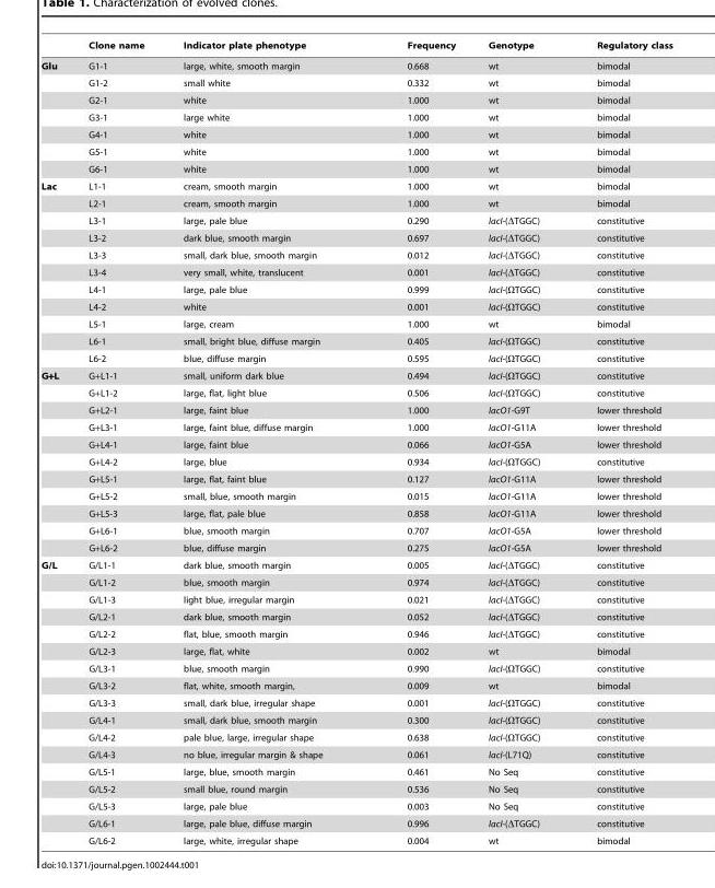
<table><thead><tr><td></td><td>Clone name</td><td>Indicator plate phenotype</td><td>Frequency</td><td>Genotype</td><td>Regulatory class</td></tr></thead><tbody><tr><td rowspan="7">Glu</td><td>G1-1</td><td>large, white, smooth margin</td><td>0.668</td><td>wt</td><td>bimodal</td></tr><tr><td>G1-2</td><td>small white</td><td>0.332</td><td>wt</td><td>bimodal</td></tr><tr><td>G2-1</td><td>white</td><td>1.000</td><td>wt</td><td>bimodal</td></tr><tr><td>G3-1</td><td>large white</td><td>1.000</td><td>wt</td><td>bimodal</td></tr><tr><td>G4-1</td><td>white</td><td>1.000</td><td>wt</td><td>bimodal</td></tr><tr><td>G5-1</td><td>white</td><td>1.000</td><td>wt</td><td>bimodal</td></tr><tr><td>G6-1</td><td>white</td><td>1.000</td><td>wt</td><td>bimodal</td></tr><tr><td rowspan="11">Lac</td><td>L1-1</td><td>cream, smooth margin</td><td>1.000</td><td>wt</td><td>bimodal</td></tr><tr><td>L2-1</td><td>cream, smooth margin</td><td>1.000</td><td>wt</td><td>bimodal</td></tr><tr><td>L3-1</td><td>large, pale blue</td><td>0.290</td><td>lacI-(ΔTGGC)</td><td>constitutive</td></tr><tr><td>L3-2</td><td>dark blue, smooth margin</td><td>0.697</td><td>lacI-(ΔTGGC)</td><td>constitutive</td></tr><tr><td>L3-3</td><td>small, dark blue, smooth margin</td><td>0.012</td><td>lacI-(ΔTGGC)</td><td>constitutive</td></tr><tr><td>L3-4</td><td>very small, white, translucent</td><td>0.001</td><td>lacI-(ΔTGGC)</td><td>constitutive</td></tr><tr><td>L4-1</td><td>large, pale blue</td><td>0.999</td><td>lacI-(ΩTGGC)</td><td>constitutive</td></tr><tr><td>L4-2</td><td>white</td><td>0.001</td><td>lacI-(ΩTGGC)</td><td>constitutive</td></tr><tr><td>L5-1</td><td>large, cream</td><td>1.000</td><td>wt</td><td>bimodal</td></tr><tr><td>L6-1</td><td>small, bright blue, diffuse margin</td><td>0.405</td><td>lacI-(ΩTGGC)</td><td>constitutive</td></tr><tr><td>L6-2</td><td>blue, diffuse margin</td><td>0.595</td><td>lacI-(ΩTGGC)</td><td>constitutive</td></tr><tr><td rowspan="11">G+L</td><td>G+L1-1</td><td>small, uniform dark blue</td><td>0.494</td><td>lacI-(ΩTGGC)</td><td>constitutive</td></tr><tr><td>G+L1-2</td><td>large, flat, light blue</td><td>0.506</td><td>lacI-(ΩTGGC)</td><td>constitutive</td></tr><tr><td>G+L2-1</td><td>large, faint blue</td><td>1.000</td><td>lacO1-G9T</td><td>lower threshold</td></tr><tr><td>G+L3-1</td><td>large, faint blue, diffuse margin</td><td>1.000</td><td>lacO1-G11A</td><td>lower threshold</td></tr><tr><td>G+L4-1</td><td>large, faint blue</td><td>0.066</td><td>lacO1-G5A</td><td>lower threshold</td></tr><tr><td>G+L4-2</td><td>large, blue</td><td>0.934</td><td>lacI-(ΩTGGC)</td><td>constitutive</td></tr><tr><td>G+L5-1</td><td>large, flat, faint blue</td><td>0.127</td><td>lacO1-G11A</td><td>lower threshold</td></tr><tr><td>G+L5-2</td><td>small, blue, smooth margin</td><td>0.015</td><td>lacO1-G11A</td><td>lower threshold</td></tr><tr><td>G+L5-3</td><td>large, flat, pale blue</td><td>0.858</td><td>lacO1-G11A</td><td>lower threshold</td></tr><tr><td>G+L6-1</td><td>blue, smooth margin</td><td>0.707</td><td>lacO1-G5A</td><td>lower threshold</td></tr><tr><td>G+L6-2</td><td>blue, diffuse margin</td><td>0.275</td><td>lacO1-G5A</td><td>lower threshold</td></tr><tr><td rowspan="17">G/L</td><td>G/L1-1</td><td>dark blue, smooth margin</td><td>0.005</td><td>lacI-(ΔTGGC)</td><td>constitutive</td></tr><tr><td>G/L1-2</td><td>blue, smooth margin</td><td>0.974</td><td>lacI-(ΔTGGC)</td><td>constitutive</td></tr><tr><td>G/L1-3</td><td>light blue, irregular margin</td><td>0.021</td><td>lacI-(ΔTGGC)</td><td>constitutive</td></tr><tr><td>G/L2-1</td><td>dark blue, smooth margin</td><td>0.052</td><td>lacI-(ΔTGGC)</td><td>constitutive</td></tr><tr><td>G/L2-2</td><td>flat, blue, smooth margin</td><td>0.946</td><td>lacI-(ΔTGGC)</td><td>constitutive</td></tr><tr><td>G/L2-3</td><td>large, flat, white</td><td>0.002</td><td>wt</td><td>bimodal</td></tr><tr><td>G/L3-1</td><td>blue, smooth margin</td><td>0.990</td><td>lacI-(ΩTGGC)</td><td>constitutive</td></tr><tr><td>G/L3-2</td><td>flat, white, smooth margin,</td><td>0.009</td><td>wt</td><td>bimodal</td></tr><tr><td>G/L3-3</td><td>small, dark blue, irregular shape</td><td>0.001</td><td>lacI-(ΩTGGC)</td><td>constitutive</td></tr><tr><td>G/L4-1</td><td>small, dark blue, smooth margin</td><td>0.300</td><td>lacI-(ΩTGGC)</td><td>constitutive</td></tr><tr><td>G/L4-2</td><td>pale blue, large, irregular shape</td><td>0.638</td><td>lacI-(ΩTGGC)</td><td>constitutive</td></tr><tr><td>G/L4-3</td><td>no blue, irregular margin &amp; shape</td><td>0.061</td><td>lacI-(L71Q)</td><td>constitutive</td></tr><tr><td>G/L5-1</td><td>large, blue, smooth margin</td><td>0.461</td><td>No Seq</td><td>constitutive</td></tr><tr><td>G/L5-2</td><td>small blue, round margin</td><td>0.536</td><td>No Seq</td><td>constitutive</td></tr><tr><td>G/L5-3</td><td>large, pale blue</td><td>0.003</td><td>No Seq</td><td>constitutive</td></tr><tr><td>G/L6-1</td><td>large, pale blue, diffuse margin</td><td>0.996</td><td>lacI-(ΔTGGC)</td><td>constitutive</td></tr><tr><td>G/L6-2</td><td>large, white, irregular shape</td><td>0.004</td><td>wt</td><td>bimodal</td></tr></tbody></table>